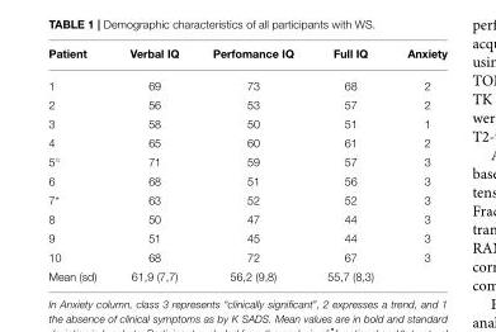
<table><thead><tr><td>Patient</td><td>Verbal IQ</td><td>Perfomance IQ</td><td>Full IQ</td><td>Anxiety</td></tr></thead><tbody><tr><td>1</td><td>69</td><td>73</td><td>68</td><td>2</td></tr><tr><td>2</td><td>56</td><td>53</td><td>57</td><td>2</td></tr><tr><td>3</td><td>58</td><td>50</td><td>51</td><td>1</td></tr><tr><td>4</td><td>65</td><td>60</td><td>61</td><td>2</td></tr><tr><td>5◦</td><td>71</td><td>59</td><td>57</td><td>3</td></tr><tr><td>6</td><td>68</td><td>51</td><td>56</td><td>3</td></tr><tr><td>7*</td><td>63</td><td>52</td><td>52</td><td>3</td></tr><tr><td>8</td><td>50</td><td>47</td><td>44</td><td>3</td></tr><tr><td>9</td><td>51</td><td>45</td><td>44</td><td>3</td></tr><tr><td>10</td><td>68</td><td>72</td><td>67</td><td>3</td></tr><tr><td>Mean (sd)</td><td>61,9 (7,7)</td><td>56,2 (9,8)</td><td>55,7 (8,3)</td><td></td></tr></tbody></table>